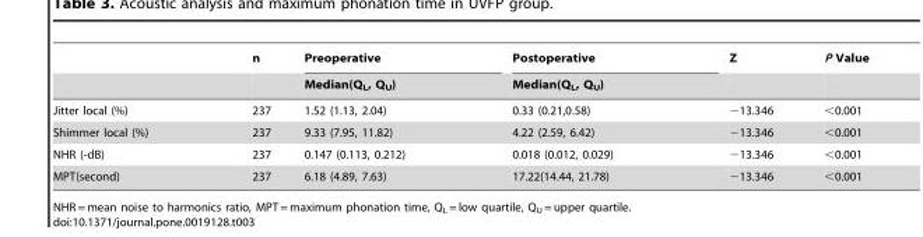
<table><thead><tr><td rowspan="2"></td><td rowspan="2">n</td><td rowspan="2">Preoperative Median(Q<sub>L</sub>, Q<sub>U</sub>)</td><td rowspan="2">Postoperative Median(Q<sub>L</sub>, Q<sub>U</sub>)</td><td rowspan="2">Z</td><td rowspan="2">P Value</td></tr><tr></tr></thead><tbody><tr><td>Jitter local (%)</td><td>237</td><td>1.52 (1.13, 2.04)</td><td>0.33 (0.21,0.58)</td><td>−13.346</td><td>&lt;0.001</td></tr><tr><td>Shimmer local (%)</td><td>237</td><td>9.33 (7.95, 11.82)</td><td>4.22 (2.59, 6.42)</td><td>−13.346</td><td>&lt;0.001</td></tr><tr><td>NHR (-dB)</td><td>237</td><td>0.147 (0.113, 0.212)</td><td>0.018 (0.012, 0.029)</td><td>−13.346</td><td>&lt;0.001</td></tr><tr><td>MPT(second)</td><td>237</td><td>6.18 (4.89, 7.63)</td><td>17.22(14.44, 21.78)</td><td>−13.346</td><td>&lt;0.001</td></tr></tbody></table>